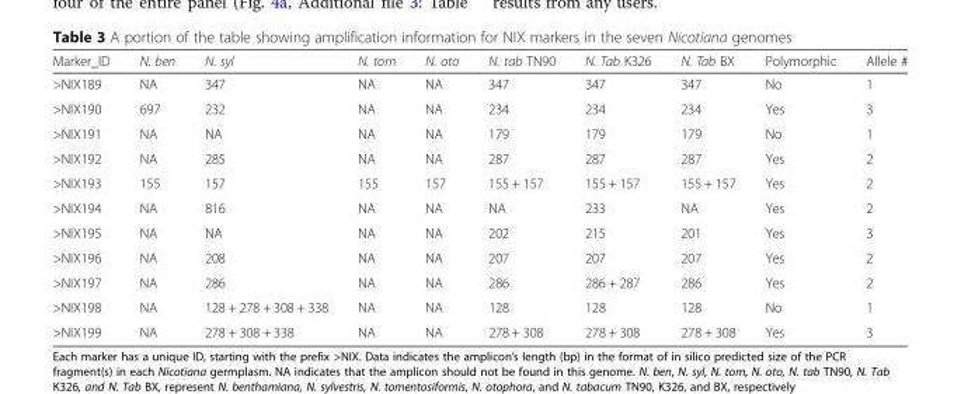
<table><thead><tr><td>Marker_ID</td><td>N. ben</td><td>N. syl</td><td>N. tom</td><td>N. oto</td><td>N. tab TN90</td><td>N. Tab K326</td><td>N. Tab BX</td><td>Polymorphic</td><td>Allele #</td></tr></thead><tbody><tr><td>&gt;NIX189</td><td>NA</td><td>347</td><td>NA</td><td>NA</td><td>347</td><td>347</td><td>347</td><td>No</td><td>1</td></tr><tr><td>&gt;NIX190</td><td>697</td><td>232</td><td>NA</td><td>NA</td><td>234</td><td>234</td><td>234</td><td>Yes</td><td>3</td></tr><tr><td>&gt;NIX191</td><td>NA</td><td>NA</td><td>NA</td><td>NA</td><td>179</td><td>179</td><td>179</td><td>No</td><td>1</td></tr><tr><td>&gt;NIX192</td><td>NA</td><td>285</td><td>NA</td><td>NA</td><td>287</td><td>287</td><td>287</td><td>Yes</td><td>2</td></tr><tr><td>&gt;NIX193</td><td>155</td><td>157</td><td>155</td><td>157</td><td>155 + 157</td><td>155 + 157</td><td>155 + 157</td><td>Yes</td><td>2</td></tr><tr><td>&gt;NIX194</td><td>NA</td><td>816</td><td>NA</td><td>NA</td><td>NA</td><td>233</td><td>NA</td><td>Yes</td><td>2</td></tr><tr><td>&gt;NIX195</td><td>NA</td><td>NA</td><td>NA</td><td>NA</td><td>202</td><td>215</td><td>201</td><td>Yes</td><td>3</td></tr><tr><td>&gt;NIX196</td><td>NA</td><td>208</td><td>NA</td><td>NA</td><td>207</td><td>207</td><td>207</td><td>Yes</td><td>2</td></tr><tr><td>&gt;NIX197</td><td>NA</td><td>286</td><td>NA</td><td>NA</td><td>286</td><td>286 + 287</td><td>286</td><td>Yes</td><td>2</td></tr><tr><td>&gt;NIX198</td><td>NA</td><td>128 + 278 + 308 + 338</td><td>NA</td><td>NA</td><td>128</td><td>128</td><td>128</td><td>No</td><td>1</td></tr><tr><td>&gt;NIX199</td><td>NA</td><td>278 + 308 + 338</td><td>NA</td><td>NA</td><td>278 + 308</td><td>278 + 308</td><td>278 + 308</td><td>Yes</td><td>3</td></tr></tbody></table>